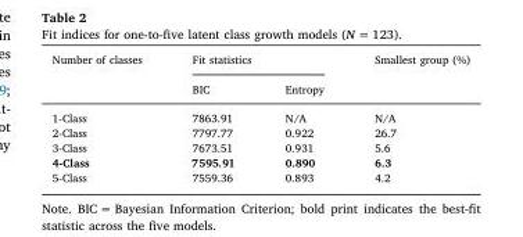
<table><thead><tr><td rowspan="2">Number of classes</td><td colspan="2">Fit statistics</td><td rowspan="2">Smallest group (%)</td></tr><tr><td>BIC</td><td>Entropy</td></tr></thead><tbody><tr><td>1-Class</td><td>7863.91</td><td>N/A</td><td>N/A</td></tr><tr><td>2-Class</td><td>7797.77</td><td>0.922</td><td>26.7</td></tr><tr><td>3-Class</td><td>7673.51</td><td>0.931</td><td>5.6</td></tr><tr><td>4-Class</td><td>7595.91</td><td>0.890</td><td>6.3</td></tr><tr><td>5-Class</td><td>7559.36</td><td>0.893</td><td>4.2</td></tr></tbody></table>